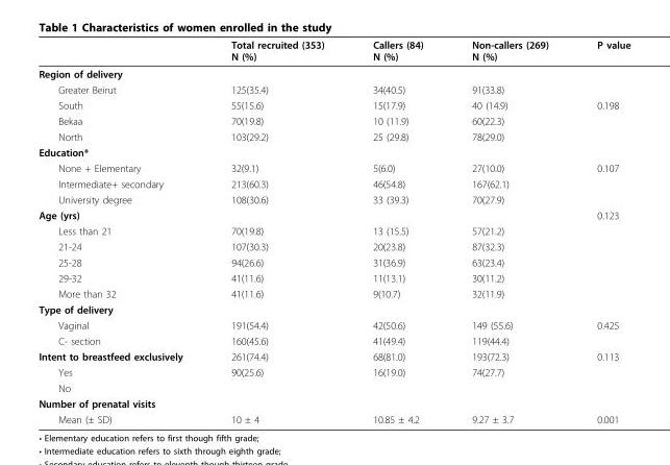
<table><thead><tr><td></td><td>Total recruited (353) N (%)</td><td>Callers (84) N (%)</td><td>Non-callers (269) N (%)</td><td>P value</td></tr></thead><tbody><tr><td colspan="5">Region of delivery</td></tr><tr><td>Greater Beirut</td><td>125(35.4)</td><td>34(40.5)</td><td>91(33.8)</td><td></td></tr><tr><td>South</td><td>55(15.6)</td><td>15(17.9)</td><td>40 (14.9)</td><td>0.198</td></tr><tr><td>Bekaa</td><td>70(19.8)</td><td>10 (11.9)</td><td>60(22.3)</td><td></td></tr><tr><td>North</td><td>103(29.2)</td><td>25 (29.8)</td><td>78(29.0)</td><td></td></tr><tr><td colspan="5">Education*</td></tr><tr><td>None + Elementary</td><td>32(9.1)</td><td>5(6.0)</td><td>27(10.0)</td><td>0.107</td></tr><tr><td>Intermediate+ secondary</td><td>213(60.3)</td><td>46(54.8)</td><td>167(62.1)</td><td></td></tr><tr><td>University degree</td><td>108(30.6)</td><td>33 (39.3)</td><td>70(27.9)</td><td></td></tr><tr><td>Age (yrs)</td><td></td><td></td><td></td><td>0.123</td></tr><tr><td>Less than 21</td><td>70(19.8)</td><td>13 (15.5)</td><td>57(21.2)</td><td></td></tr><tr><td>21-24</td><td>107(30.3)</td><td>20(23.8)</td><td>87(32.3)</td><td></td></tr><tr><td>25-28</td><td>94(26.6)</td><td>31(36.9)</td><td>63(23.4)</td><td></td></tr><tr><td>29-32</td><td>41(11.6)</td><td>11(13.1)</td><td>30(11.2)</td><td></td></tr><tr><td>More than 32</td><td>41(11.6)</td><td>9(10.7)</td><td>32(11.9)</td><td></td></tr><tr><td colspan="5">Type of delivery</td></tr><tr><td>Vaginal</td><td>191(54.4)</td><td>42(50.6)</td><td>149 (55.6)</td><td>0.425</td></tr><tr><td>C- section</td><td>160(45.6)</td><td>41(49.4)</td><td>119(44.4)</td><td></td></tr><tr><td>Intent to breastfeed exclusively</td><td>261(74.4)</td><td>68(81.0)</td><td>193(72.3)</td><td>0.113</td></tr><tr><td>Yes</td><td>90(25.6)</td><td>16(19.0)</td><td>74(27.7)</td><td></td></tr><tr><td colspan="5">No</td></tr><tr><td colspan="5">Number of prenatal visits</td></tr><tr><td>Mean (± SD)</td><td>10 ± 4</td><td>10.85 ± 4.2</td><td>9.27 ± 3.7</td><td>0.001</td></tr></tbody></table>